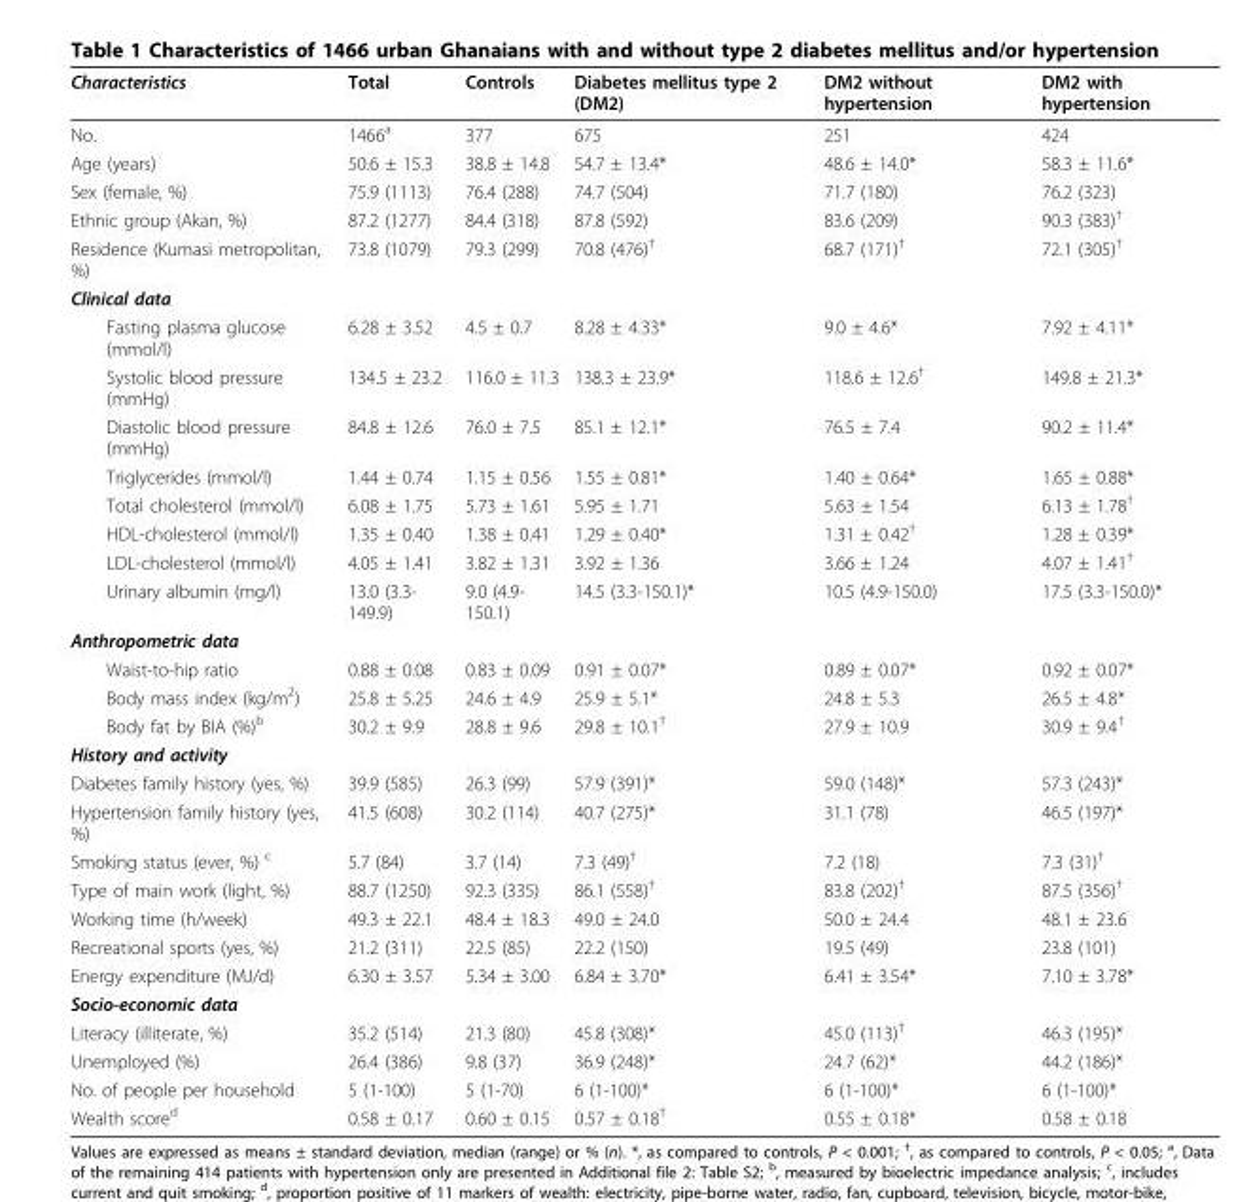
<table><thead><tr><td>Characteristics</td><td>Total</td><td>Controls</td><td>Diabetes mellitus type 2 (DM2)</td><td>DM2 without hypertension</td><td>DM2 with hypertension</td></tr></thead><tbody><tr><td>No.</td><td>1466<sup>a</sup></td><td>377</td><td>675</td><td>251</td><td>424</td></tr><tr><td>Age (years)</td><td>50.6 ± 15.3</td><td>38.8 ± 14.8</td><td>54.7 ± 13.4*</td><td>48.6 ± 14.0*</td><td>58.3 ± 11.6*</td></tr><tr><td>Sex (female, %)</td><td>75.9 (1113)</td><td>76.4 (288)</td><td>74.7 (504)</td><td>71.7 (180)</td><td>76.2 (323)</td></tr><tr><td>Ethnic group (Akan, %)</td><td>87.2 (1277)</td><td>84.4 (318)</td><td>87.8 (592)</td><td>83.6 (209)</td><td>90.3 (383)<sup>†</sup></td></tr><tr><td>Residence (Kumasi metropolitan, %)</td><td>73.8 (1079)</td><td>79.3 (299)</td><td>70.8 (476)<sup>†</sup></td><td>68.7 (171)<sup>†</sup></td><td>72.1 (305)<sup>†</sup></td></tr><tr><td colspan="6">Clinical data</td></tr><tr><td>Fasting plasma glucose (mmol/l)</td><td>6.28 ± 3.52</td><td>4.5 ± 0.7</td><td>8.28 ± 4.33*</td><td>9.0 ± 4.6*</td><td>7.92 ± 4.11*</td></tr><tr><td>Systolic blood pressure (mmHg)</td><td>134.5 ± 23.2</td><td>116.0 ± 11.3</td><td>138.3 ± 23.9*</td><td>118.6 ± 12.6<sup>†</sup></td><td>149.8 ± 21.3*</td></tr><tr><td>Diastolic blood pressure (mmHg)</td><td>84.8 ± 12.6</td><td>76.0 ± 7.5</td><td>85.1 ± 12.1*</td><td>76.5 ± 7.4</td><td>90.2 ± 11.4*</td></tr><tr><td>Triglycerides (mmol/l)</td><td>1.44 ± 0.74</td><td>1.15 ± 0.56</td><td>1.55 ± 0.81*</td><td>1.40 ± 0.64*</td><td>1.65 ± 0.88*</td></tr><tr><td>Total cholesterol (mmol/l)</td><td>6.08 ± 1.75</td><td>5.73 ± 1.61</td><td>5.95 ± 1.71</td><td>5.63 ± 1.54</td><td>6.13 ± 1.78<sup>†</sup></td></tr><tr><td>HDL-cholesterol (mmol/l)</td><td>1.35 ± 0.40</td><td>1.38 ± 0.41</td><td>1.29 ± 0.40*</td><td>1.31 ± 0.42<sup>†</sup></td><td>1.28 ± 0.39*</td></tr><tr><td>LDL-cholesterol (mmol/l)</td><td>4.05 ± 1.41</td><td>3.82 ± 1.31</td><td>3.92 ± 1.36</td><td>3.66 ± 1.24</td><td>4.07 ± 1.41<sup>†</sup></td></tr><tr><td>Urinary albumin (mg/l)</td><td>13.0 (3.3- 149.9)</td><td>9.0 (4.9- 150.1)</td><td>14.5 (3.3-150.1)*</td><td>10.5 (4.9-150.0)</td><td>17.5 (3.3-150.0)*</td></tr><tr><td colspan="6">Anthropometric data</td></tr><tr><td>Waist-to-hip ratio</td><td>0.88 ± 0.08</td><td>0.83 ± 0.09</td><td>0.91 ± 0.07*</td><td>0.89 ± 0.07*</td><td>0.92 ± 0.07*</td></tr><tr><td>Body mass index (kg/m<sup>2</sup>)</td><td>25.8 ± 5.25</td><td>24.6 ± 4.9</td><td>25.9 ± 5.1*</td><td>24.8 ± 5.3</td><td>26.5 ± 4.8*</td></tr><tr><td>Body fat by BIA (%)<sup>b</sup></td><td>30.2 ± 9.9</td><td>28.8 ± 9.6</td><td>29.8 ± 10.1<sup>†</sup></td><td>27.9 ± 10.9</td><td>30.9 ± 9.4<sup>†</sup></td></tr><tr><td colspan="6">History and activity</td></tr><tr><td>Diabetes family history (yes, %)</td><td>39.9 (585)</td><td>26.3 (99)</td><td>57.9 (391)*</td><td>59.0 (148)*</td><td>57.3 (243)*</td></tr><tr><td>Hypertension family history (yes, %)</td><td>41.5 (608)</td><td>30.2 (114)</td><td>40.7 (275)*</td><td>31.1 (78)</td><td>46.5 (197)*</td></tr><tr><td>Smoking status (ever, %) <sup>c</sup></td><td>5.7 (84)</td><td>3.7 (14)</td><td>7.3 (49)<sup>†</sup></td><td>7.2 (18)</td><td>7.3 (31)<sup>†</sup></td></tr><tr><td>Type of main work (light, %)</td><td>88.7 (1250)</td><td>92.3 (335)</td><td>86.1 (558)<sup>†</sup></td><td>83.8 (202)<sup>†</sup></td><td>87.5 (356)<sup>†</sup></td></tr><tr><td>Working time (h/week)</td><td>49.3 ± 22.1</td><td>48.4 ± 18.3</td><td>49.0 ± 24.0</td><td>50.0 ± 24.4</td><td>48.1 ± 23.6</td></tr><tr><td>Recreational sports (yes, %)</td><td>21.2 (311)</td><td>22.5 (85)</td><td>22.2 (150)</td><td>19.5 (49)</td><td>23.8 (101)</td></tr><tr><td>Energy expenditure (MJ/d)</td><td>6.30 ± 3.57</td><td>5.34 ± 3.00</td><td>6.84 ± 3.70*</td><td>6.41 ± 3.54*</td><td>7.10 ± 3.78*</td></tr><tr><td colspan="6">Socio-economic data</td></tr><tr><td>Literacy (illiterate, %)</td><td>35.2 (514)</td><td>21.3 (80)</td><td>45.8 (308)*</td><td>45.0 (113)<sup>†</sup></td><td>46.3 (195)*</td></tr><tr><td>Unemployed (%)</td><td>26.4 (386)</td><td>9.8 (37)</td><td>36.9 (248)*</td><td>24.7 (62)*</td><td>44.2 (186)*</td></tr><tr><td>No. of people per household</td><td>5 (1-100)</td><td>5 (1-70)</td><td>6 (1-100)*</td><td>6 (1-100)*</td><td>6 (1-100)*</td></tr><tr><td>Wealth score<sup>d</sup></td><td>0.58 ± 0.17</td><td>0.60 ± 0.15</td><td>0.57 ± 0.18<sup>†</sup></td><td>0.55 ± 0.18*</td><td>0.58 ± 0.18</td></tr></tbody></table>